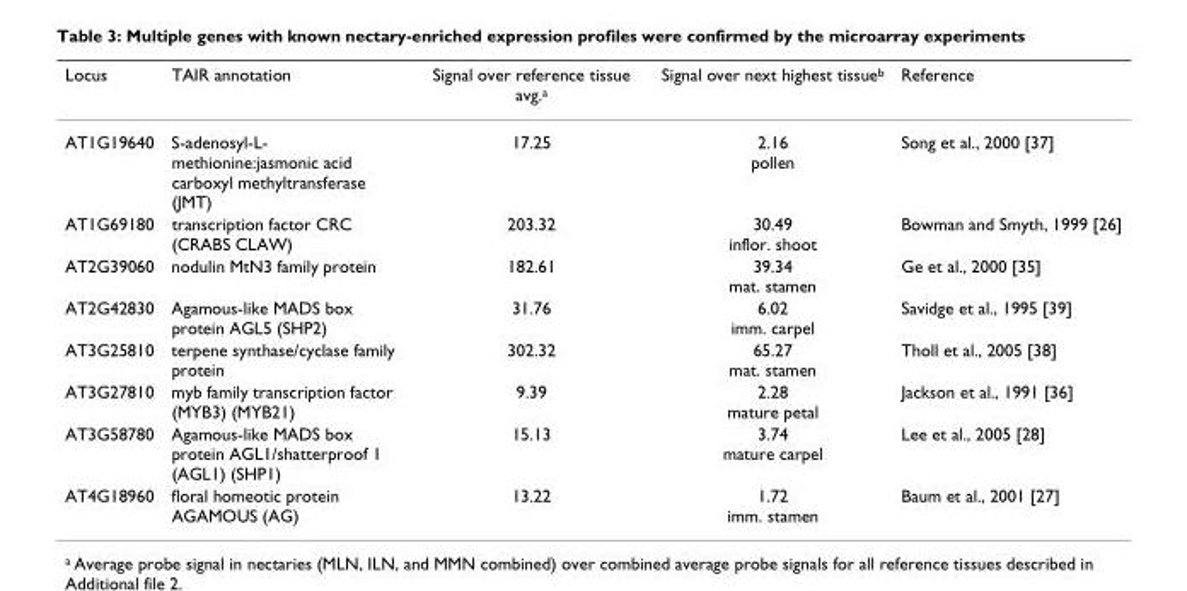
<table><thead><tr><td>Locus</td><td>TAIR annotation</td><td>Signal over reference tissue avg.<sup>a</sup></td><td>Signal over next highest tissue<sup>b</sup></td><td>Reference</td></tr></thead><tbody><tr><td>AT1G19640</td><td>S-adenosyl-L- methionine:jasmonic acid carboxyl methyltransferase (JMT)</td><td>17.25</td><td>2.16 pollen</td><td>Song et al., 2000 [37]</td></tr><tr><td>AT1G69180</td><td>transcription factor CRC (CRABS CLAW)</td><td>203.32</td><td>30.49 inflor. shoot</td><td>Bowman and Smyth, 1999 [26]</td></tr><tr><td>AT2G39060</td><td>nodulin MtN3 family protein</td><td>182.61</td><td>39.34 mat. stamen</td><td>Ge et al., 2000 [35]</td></tr><tr><td>AT2G42830</td><td>Agamous-like MADS box protein AGL5 (SHP2)</td><td>31.76</td><td>6.02 imm. carpel</td><td>Savidge et al., 1995 [39]</td></tr><tr><td>AT3G25810</td><td>terpene synthase/cyclase family protein</td><td>302.32</td><td>65.27 mat. stamen</td><td>Tholl et al., 2005 [38]</td></tr><tr><td>AT3G27810</td><td>myb family transcription factor (MYB3) (MYB21)</td><td>9.39</td><td>2.28 mature petal</td><td>Jackson et al., 1991 [36]</td></tr><tr><td>AT3G58780</td><td>Agamous-like MADS box protein AGL1/shatterproof 1 (AGL1) (SHP1)</td><td>15.13</td><td>3.74 mature carpel</td><td>Lee et al., 2005 [28]</td></tr><tr><td>AT4G18960</td><td>floral homeotic protein AGAMOUS (AG)</td><td>13.22</td><td>1.72 imm. stamen</td><td>Baum et al., 2001 [27]</td></tr></tbody></table>